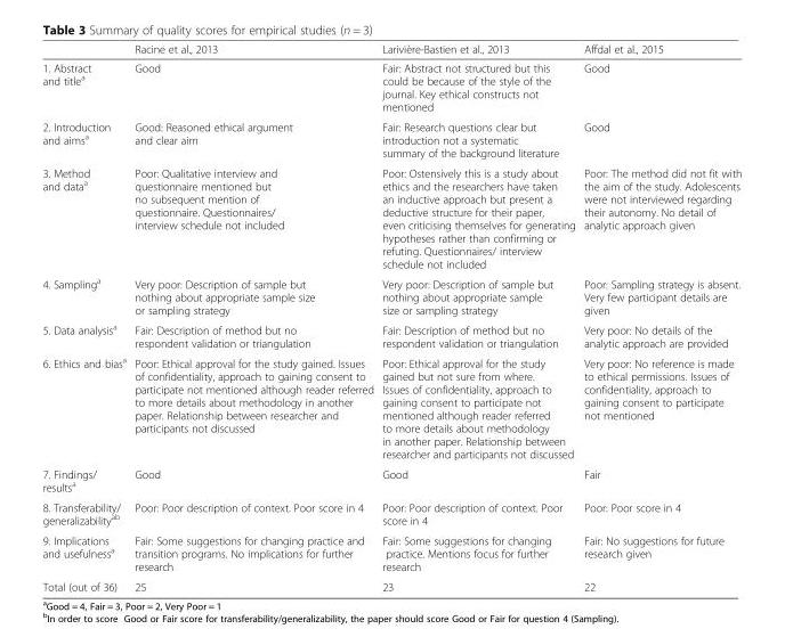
<table><thead><tr><td></td><td>Racine et al., 2013</td><td>Larivière-Bastien et al., 2013</td><td>Affdal et al., 2015</td></tr></thead><tbody><tr><td>1. Abstract and title<sup>a</sup></td><td>Good</td><td>Fair: Abstract not structured but this could be because of the style of the journal. Key ethical constructs not mentioned</td><td>Good</td></tr><tr><td>2. Introduction and aims<sup>a</sup></td><td>Good: Reasoned ethical argument and clear aim</td><td>Fair: Research questions clear but introduction not a systematic summary of the background literature</td><td>Good</td></tr><tr><td>3. Method and data<sup>a</sup></td><td>Poor: Qualitative interview and questionnaire mentioned but no subsequent mention of questionnaire. Questionnaires/ interview schedule not included</td><td>Poor: Ostensively this is a study about ethics and the researchers have taken an inductive approach but present a deductive structure for their paper, even criticising themselves for generating hypotheses rather than confirming or refuting. Questionnaires/ interview schedule not included</td><td>Poor: The method did not fit with the aim of the study. Adolescents were not interviewed regarding their autonomy. No detail of analytic approach given</td></tr><tr><td>4. Sampling<sup>a</sup></td><td>Very poor: Description of sample but nothing about appropriate sample size or sampling strategy</td><td>Very poor: Description of sample but nothing about appropriate sample size or sampling strategy</td><td>Poor: Sampling strategy is absent. Very few participant details are given</td></tr><tr><td>5. Data analysis<sup>a</sup></td><td>Fair: Description of method but no respondent validation or triangulation</td><td>Fair: Description of method but no respondent validation or triangulation</td><td>Very poor: No details of the analytic approach are provided</td></tr><tr><td>6. Ethics and bias<sup>a</sup></td><td>Poor: Ethical approval for the study gained. Issues of confidentiality, approach to gaining consent to participate not mentioned although reader referred to more details about methodology in another paper. Relationship between researcher and participants not discussed</td><td>Poor: Ethical approval for the study gained but not sure from where. Issues of confidentiality, approach to gaining consent to participate not mentioned although reader referred to more details about methodology in another paper. Relationship between researcher and participants not discussed</td><td>Very poor: No reference is made to ethical permissions. Issues of confidentiality, approach to gaining consent to participate not mentioned</td></tr><tr><td>7. Findings/ results<sup>a</sup></td><td>Good</td><td>Good</td><td>Fair</td></tr><tr><td>8. Transferability/ generalizability<sup>ab</sup></td><td>Poor: Poor description of context. Poor score in 4</td><td>Poor: Poor description of context. Poor score in 4</td><td>Poor: Poor score in 4</td></tr><tr><td>9. Implications and usefulness<sup>a</sup></td><td>Fair: Some suggestions for changing practice and transition programs. No implications for further research</td><td>Fair: Some suggestions for changing practice. Mentions focus for further research</td><td>Fair: No suggestions for future research given</td></tr><tr><td>Total (out of 36)</td><td>25</td><td>23</td><td>22</td></tr></tbody></table>